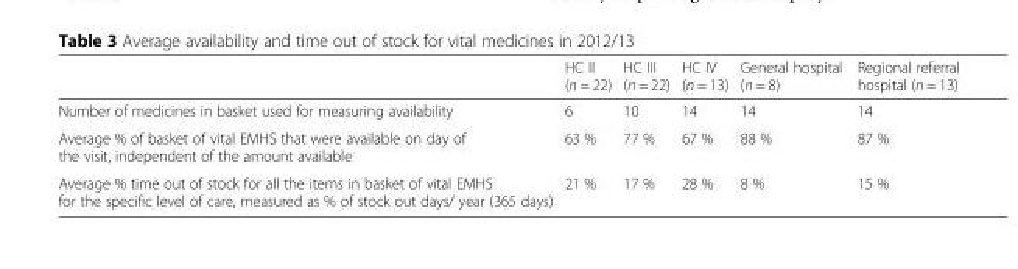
<table><thead><tr><td></td><td>HC II (n = 22)</td><td>HC III (n = 22)</td><td>HC IV (n = 13)</td><td>General hospital (n = 8)</td><td>Regional referral hospital (n = 13)</td></tr></thead><tbody><tr><td>Number of medicines in basket used for measuring availability</td><td>6</td><td>10</td><td>14</td><td>14</td><td>14</td></tr><tr><td>Average % of basket of vital EMHS that were available on day of the visit, independent of the amount available</td><td>63 %</td><td>77 %</td><td>67 %</td><td>88 %</td><td>87 %</td></tr><tr><td>Average % time out of stock for all the items in basket of vital EMHS for the specific level of care, measured as % of stock out days/ year (365 days)</td><td>21 %</td><td>17 %</td><td>28 %</td><td>8 %</td><td>15 %</td></tr></tbody></table>